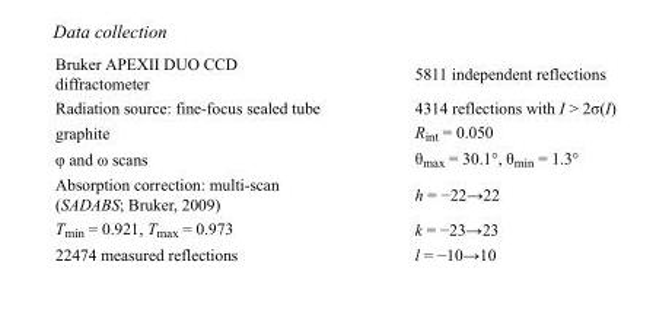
<table><tbody><tr><td>Bruker APEXII DUO CCD diffractometer</td><td>5811 independent reflections</td></tr><tr><td>Radiation source: fine-focus sealed tube</td><td>4314 reflections with I &gt; 2σ(I)</td></tr><tr><td>graphite</td><td>R<sub>int</sub> = 0.050</td></tr><tr><td>φ and ω scans</td><td>θ<sub>max</sub> = 30.1°, θ<sub>min</sub> = 1.3°</td></tr><tr><td>Absorption correction: multi-scan (SADABS; Bruker, 2009)</td><td>h = −22→22</td></tr><tr><td>T<sub>min</sub> = 0.921, T<sub>max</sub> = 0.973</td><td>k = −23→23</td></tr><tr><td>22474 measured reflections</td><td>l = −10→10</td></tr></tbody></table>